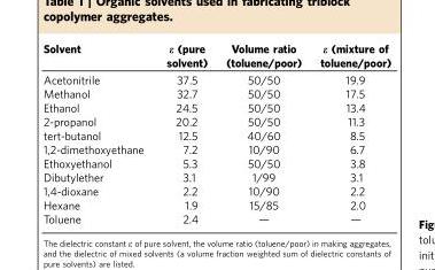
<table><thead><tr><td>Solvent</td><td>e (pure solvent)</td><td>Volume ratio (toluene/poor)</td><td>e (mixture of toluene/poor)</td></tr></thead><tbody><tr><td>Acetonitrile</td><td>37.5</td><td>50/50</td><td>19.9</td></tr><tr><td>Methanol</td><td>32.7</td><td>50/50</td><td>17.5</td></tr><tr><td>Ethanol</td><td>24.5</td><td>50/50</td><td>13.4</td></tr><tr><td>2-propanol</td><td>20.2</td><td>50/50</td><td>11.3</td></tr><tr><td>tert-butanol</td><td>12.5</td><td>40/60</td><td>8.5</td></tr><tr><td>1,2-dimethoxyethane</td><td>7.2</td><td>10/90</td><td>6.7</td></tr><tr><td>Ethoxyethanol</td><td>5.3</td><td>50/50</td><td>3.8</td></tr><tr><td>Dibutylether</td><td>3.1</td><td>1/99</td><td>3.1</td></tr><tr><td>1,4-dioxane</td><td>2.2</td><td>10/90</td><td>2.2</td></tr><tr><td>Hexane</td><td>1.9</td><td>15/85</td><td>2.0</td></tr><tr><td>Toluene</td><td>2.4</td><td>—</td><td>—</td></tr></tbody></table>